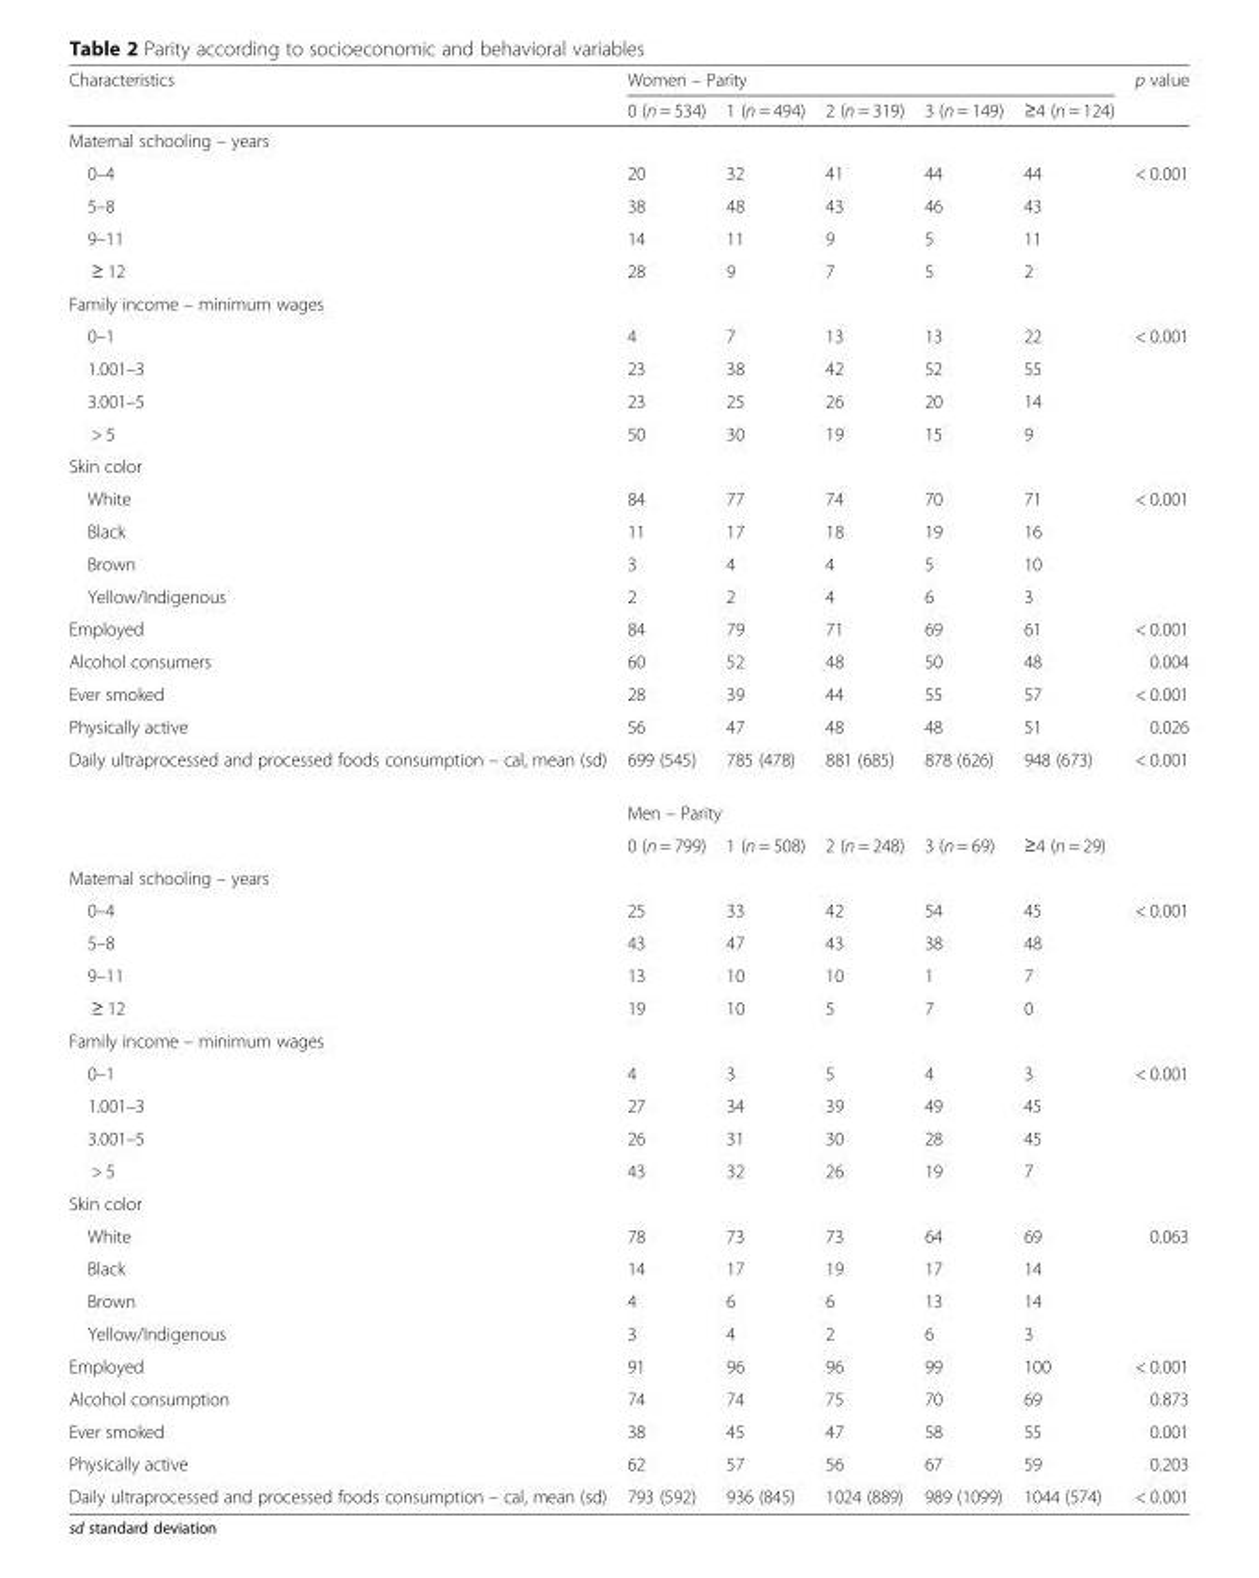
<table><thead><tr><td rowspan="2">Characteristics</td><td colspan="5">Women – Parity</td><td rowspan="2">p value</td></tr><tr><td>0 (n = 534)</td><td>1 (n = 494)</td><td>2 (n = 319)</td><td>3 (n = 149)</td><td>≥4 (n = 124)</td></tr></thead><tbody><tr><td colspan="7">Maternal schooling – years</td></tr><tr><td>0–4</td><td>20</td><td>32</td><td>41</td><td>44</td><td>44</td><td>&lt; 0.001</td></tr><tr><td>5–8</td><td>38</td><td>48</td><td>43</td><td>46</td><td>43</td><td></td></tr><tr><td>9–11</td><td>14</td><td>11</td><td>9</td><td>5</td><td>11</td><td></td></tr><tr><td>≥ 12</td><td>28</td><td>9</td><td>7</td><td>5</td><td>2</td><td></td></tr><tr><td colspan="7">Family income – minimum wages</td></tr><tr><td>0–1</td><td>4</td><td>7</td><td>13</td><td>13</td><td>22</td><td>&lt; 0.001</td></tr><tr><td>1.001–3</td><td>23</td><td>38</td><td>42</td><td>52</td><td>55</td><td></td></tr><tr><td>3.001–5</td><td>23</td><td>25</td><td>26</td><td>20</td><td>14</td><td></td></tr><tr><td>&gt; 5</td><td>50</td><td>30</td><td>19</td><td>15</td><td>9</td><td></td></tr><tr><td colspan="7">Skin color</td></tr><tr><td>White</td><td>84</td><td>77</td><td>74</td><td>70</td><td>71</td><td>&lt; 0.001</td></tr><tr><td>Black</td><td>11</td><td>17</td><td>18</td><td>19</td><td>16</td><td></td></tr><tr><td>Brown</td><td>3</td><td>4</td><td>4</td><td>5</td><td>10</td><td></td></tr><tr><td>Yellow/Indigenous</td><td>2</td><td>2</td><td>4</td><td>6</td><td>3</td><td></td></tr><tr><td>Employed</td><td>84</td><td>79</td><td>71</td><td>69</td><td>61</td><td>&lt; 0.001</td></tr><tr><td>Alcohol consumers</td><td>60</td><td>52</td><td>48</td><td>50</td><td>48</td><td>0.004</td></tr><tr><td>Ever smoked</td><td>28</td><td>39</td><td>44</td><td>55</td><td>57</td><td>&lt; 0.001</td></tr><tr><td>Physically active</td><td>56</td><td>47</td><td>48</td><td>48</td><td>51</td><td>0.026</td></tr><tr><td rowspan="3">Daily ultraprocessed and processed foods consumption – cal, mean (sd)</td><td>699 (545)</td><td>785 (478)</td><td>881 (685)</td><td>878 (626)</td><td>948 (673)</td><td>&lt; 0.001</td></tr><tr><td colspan="5">Men – Parity</td><td></td></tr><tr><td>0 (n = 799)</td><td>1 (n = 508)</td><td>2 (n = 248)</td><td>3 (n = 69)</td><td>≥4 (n = 29)</td><td></td></tr><tr><td colspan="7">Maternal schooling – years</td></tr><tr><td>0–4</td><td>25</td><td>33</td><td>42</td><td>54</td><td>45</td><td>&lt; 0.001</td></tr><tr><td>5–8</td><td>43</td><td>47</td><td>43</td><td>38</td><td>48</td><td></td></tr><tr><td>9–11</td><td>13</td><td>10</td><td>10</td><td>1</td><td>7</td><td></td></tr><tr><td>≥ 12</td><td>19</td><td>10</td><td>5</td><td>7</td><td>0</td><td></td></tr><tr><td colspan="7">Family income – minimum wages</td></tr><tr><td>0–1</td><td>4</td><td>3</td><td>5</td><td>4</td><td>3</td><td>&lt; 0.001</td></tr><tr><td>1.001–3</td><td>27</td><td>34</td><td>39</td><td>49</td><td>45</td><td></td></tr><tr><td>3.001–5</td><td>26</td><td>31</td><td>30</td><td>28</td><td>45</td><td></td></tr><tr><td>&gt; 5</td><td>43</td><td>32</td><td>26</td><td>19</td><td>7</td><td></td></tr><tr><td colspan="7">Skin color</td></tr><tr><td>White</td><td>78</td><td>73</td><td>73</td><td>64</td><td>69</td><td>0.063</td></tr><tr><td>Black</td><td>14</td><td>17</td><td>19</td><td>17</td><td>14</td><td></td></tr><tr><td>Brown</td><td>4</td><td>6</td><td>6</td><td>13</td><td>14</td><td></td></tr><tr><td>Yellow/Indigenous</td><td>3</td><td>4</td><td>2</td><td>6</td><td>3</td><td></td></tr><tr><td>Employed</td><td>91</td><td>96</td><td>96</td><td>99</td><td>100</td><td>&lt; 0.001</td></tr><tr><td>Alcohol consumption</td><td>74</td><td>74</td><td>75</td><td>70</td><td>69</td><td>0.873</td></tr><tr><td>Ever smoked</td><td>38</td><td>45</td><td>47</td><td>58</td><td>55</td><td>0.001</td></tr><tr><td>Physically active</td><td>62</td><td>57</td><td>56</td><td>67</td><td>59</td><td>0.203</td></tr><tr><td>Daily ultraprocessed and processed foods consumption – cal, mean (sd)</td><td>793 (592)</td><td>936 (845)</td><td>1024 (889)</td><td>989 (1099)</td><td>1044 (574)</td><td>&lt; 0.001</td></tr></tbody></table>